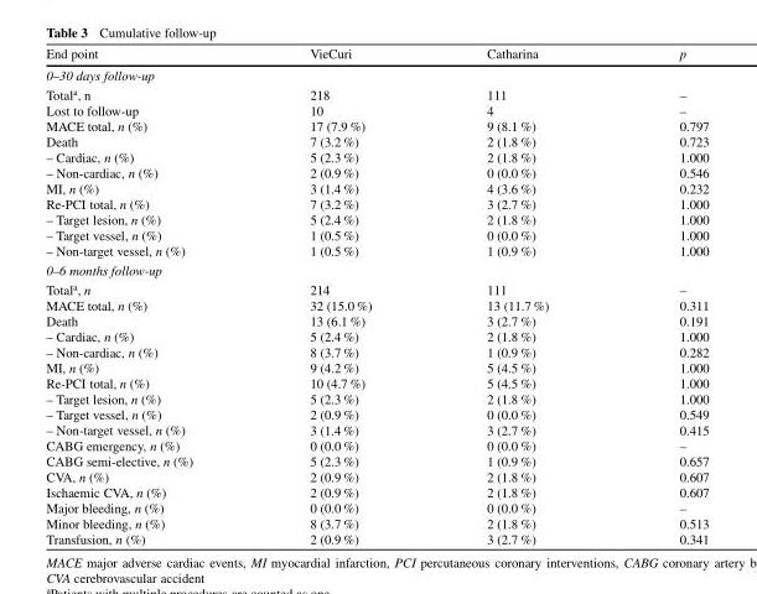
<table><thead><tr><td>End point</td><td>VieCuri</td><td>Catharina</td><td>p</td></tr></thead><tbody><tr><td colspan="4">0–30 days follow-up</td></tr><tr><td>Total<sup>a</sup>, n Lost to follow-up MACE total, n (%) Death – Cardiac, n (%) – Non-cardiac, n (%) MI, n (%) Re-PCI total, n (%) – Target lesion, n (%) – Target vessel, n (%) – Non-target vessel, n (%)</td><td>218 10 17 (7.9 %) 7 (3.2 %) 5 (2.3 %) 2 (0.9 %) 3 (1.4 %) 7 (3.2 %) 5 (2.4 %) 1 (0.5 %) 1 (0.5 %)</td><td>111 4 9 (8.1 %) 2 (1.8 %) 2 (1.8 %) 0 (0.0 %) 4 (3.6 %) 3 (2.7 %) 2 (1.8 %) 0 (0.0 %) 1 (0.9 %)</td><td>– – 0.797 0.723 1.000 0.546 0.232 1.000 1.000 1.000 1.000</td></tr><tr><td colspan="4">0–6 months follow-up</td></tr><tr><td>Total<sup>a</sup>, n MACE total, n (%) Death – Cardiac, n (%) – Non-cardiac, n (%) MI, n (%) Re-PCI total, n (%) – Target lesion, n (%) – Target vessel, n (%) – Non-target vessel, n (%) CABG emergency, n (%) CABG semi-elective, n (%) CVA, n (%) Ischaemic CVA, n (%) Major bleeding, n (%) Minor bleeding, n (%) Transfusion, n (%)</td><td>214 32 (15.0 %) 13 (6.1 %) 5 (2.4 %) 8 (3.7 %) 9 (4.2 %) 10 (4.7 %) 5 (2.3 %) 2 (0.9 %) 3 (1.4 %) 0 (0.0 %) 5 (2.3 %) 2 (0.9 %) 2 (0.9 %) 0 (0.0 %) 8 (3.7 %) 2 (0.9 %)</td><td>111 13 (11.7 %) 3 (2.7 %) 2 (1.8 %) 1 (0.9 %) 5 (4.5 %) 5 (4.5 %) 2 (1.8 %) 0 (0.0 %) 3 (2.7 %) 0 (0.0 %) 1 (0.9 %) 2 (1.8 %) 2 (1.8 %) 0 (0.0 %) 2 (1.8 %) 3 (2.7 %)</td><td>– 0.311 0.191 1.000 0.282 1.000 1.000 1.000 0.549 0.415 – 0.657 0.607 0.607 – 0.513 0.341</td></tr></tbody></table>